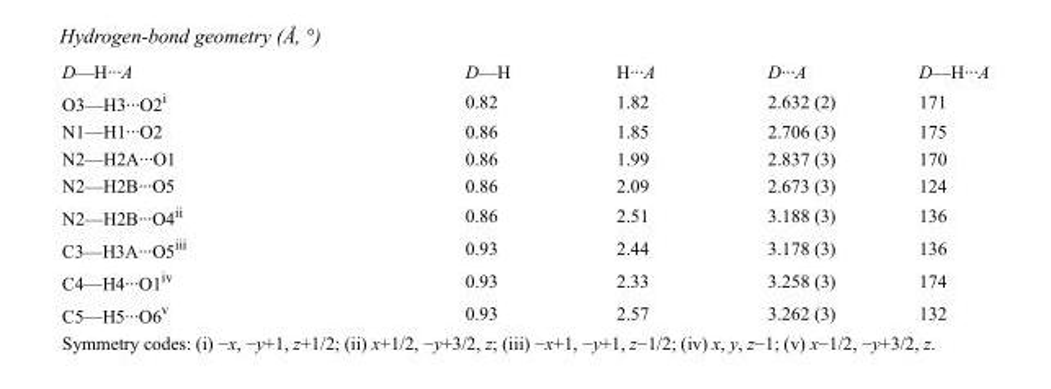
<table><tbody><tr><td>D—H···A</td><td>D—H</td><td>H···A</td><td>D···A</td><td>D—H···A</td></tr><tr><td>O3—H3···O2<sup>i</sup></td><td>0.82</td><td>1.82</td><td>2.632 (2)</td><td>171</td></tr><tr><td>N1—H1···O2</td><td>0.86</td><td>1.85</td><td>2.706 (3)</td><td>175</td></tr><tr><td>N2—H2A···O1</td><td>0.86</td><td>1.99</td><td>2.837 (3)</td><td>170</td></tr><tr><td>N2—H2B···O5</td><td>0.86</td><td>2.09</td><td>2.673 (3)</td><td>124</td></tr><tr><td>N2—H2B···O4<sup>ii</sup></td><td>0.86</td><td>2.51</td><td>3.188 (3)</td><td>136</td></tr><tr><td>C3—H3A···O5<sup>iii</sup></td><td>0.93</td><td>2.44</td><td>3.178 (3)</td><td>136</td></tr><tr><td>C4—H4···O1<sup>iv</sup></td><td>0.93</td><td>2.33</td><td>3.258 (3)</td><td>174</td></tr><tr><td>C5—H5···O6<sup>v</sup></td><td>0.93</td><td>2.57</td><td>3.262 (3)</td><td>132</td></tr></tbody></table>